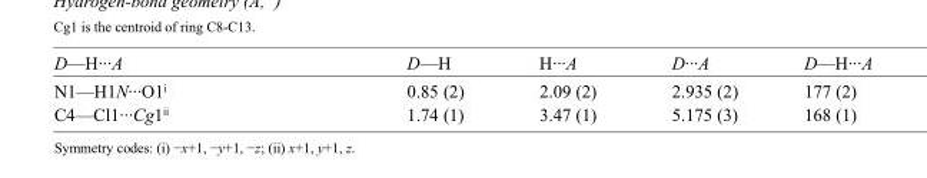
<table><tbody><tr><td>D—H···A</td><td>D—H</td><td>H···A</td><td>D···A</td><td>D—H···A</td></tr><tr><td>N1—H1N···O1<sup>i</sup></td><td>0.85 (2)</td><td>2.09 (2)</td><td>2.935 (2)</td><td>177 (2)</td></tr><tr><td>C4—Cl1···Cg1<sup>ii</sup></td><td>1.74 (1)</td><td>3.47 (1)</td><td>5.175 (3)</td><td>168 (1)</td></tr></tbody></table>